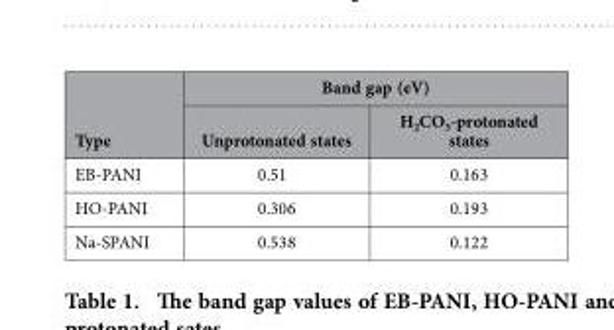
<table><thead><tr><td rowspan="2">Type</td><td colspan="2">Band gap (eV)</td></tr><tr><td>Unprotonated states</td><td>H<sub>2</sub>CO<sub>3</sub>-protonated states</td></tr></thead><tbody><tr><td>EB-PANI</td><td>0.51</td><td>0.163</td></tr><tr><td>HO-PANI</td><td>0.306</td><td>0.193</td></tr><tr><td>Na-SPANI</td><td>0.538</td><td>0.122</td></tr></tbody></table>